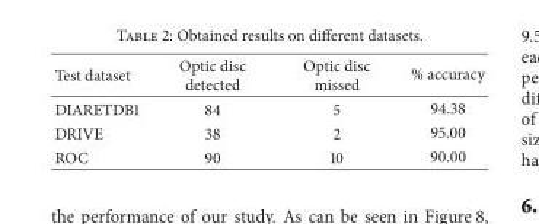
<table><thead><tr><td>Test dataset</td><td>Optic disc detected</td><td>Optic disc missed</td><td>% accuracy</td></tr></thead><tbody><tr><td>DIARETDB1</td><td>84</td><td>5</td><td>94.38</td></tr><tr><td>DRIVE</td><td>38</td><td>2</td><td>95.00</td></tr><tr><td>ROC</td><td>90</td><td>10</td><td>90.00</td></tr></tbody></table>